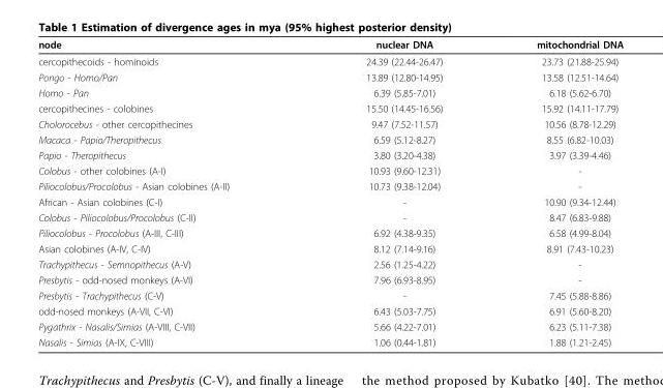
<table><thead><tr><td>node</td><td>nuclear DNA</td><td>mitochondrial DNA</td></tr></thead><tbody><tr><td>cercopithecoids - hominoids</td><td>24.39 (22.44-26.47)</td><td>23.73 (21.88-25.94)</td></tr><tr><td>Pongo - Homo/Pan</td><td>13.89 (12.80-14.95)</td><td>13.58 (12.51-14.64)</td></tr><tr><td>Homo - Pan</td><td>6.39 (5.85-7.01)</td><td>6.18 (5.62-6.70)</td></tr><tr><td>cercopithecines - colobines</td><td>15.50 (14.45-16.56)</td><td>15.92 (14.11-17.79)</td></tr><tr><td>Cholorocebus - other cercopithecines</td><td>9.47 (7.52-11.57)</td><td>10.56 (8.78-12.29)</td></tr><tr><td>Macaca - Papio/Theropithecus</td><td>6.59 (5.12-8.27)</td><td>8.55 (6.82-10.03)</td></tr><tr><td>Papio - Theropithecus</td><td>3.80 (3.20-4.38)</td><td>3.97 (3.39-4.46)</td></tr><tr><td>Colobus - other colobines (A-I)</td><td>10.93 (9.60-12.31)</td><td>-</td></tr><tr><td>Piliocolobus/Procolobus - Asian colobines (A-II)</td><td>10.73 (9.38-12.04)</td><td>-</td></tr><tr><td>African - Asian colobines (C-I)</td><td>-</td><td>10.90 (9.34-12.44)</td></tr><tr><td>Colobus - Piliocolobus/Procolobus (C-II)</td><td>-</td><td>8.47 (6.83-9.88)</td></tr><tr><td>Piliocolobus - Procolobus (A-III, C-III)</td><td>6.92 (4.38-9.35)</td><td>6.58 (4.99-8.04)</td></tr><tr><td>Asian colobines (A-IV, C-IV)</td><td>8.12 (7.14-9.16)</td><td>8.91 (7.43-10.23)</td></tr><tr><td>Trachypithecus - Semnopithecus (A-V)</td><td>2.56 (1.25-4.22)</td><td>-</td></tr><tr><td>Presbytis - odd-nosed monkeys (A-VI)</td><td>7.96 (6.93-8.95)</td><td>-</td></tr><tr><td>Presbytis - Trachypithecus (C-V)</td><td>-</td><td>7.45 (5.88-8.86)</td></tr><tr><td>odd-nosed monkeys (A-VII, C-VI)</td><td>6.43 (5.03-7.75)</td><td>6.91 (5.60-8.20)</td></tr><tr><td>Pygathrix - Nasalis/Simias (A-VIII, C-VII)</td><td>5.66 (4.22-7.01)</td><td>6.23 (5.11-7.38)</td></tr><tr><td>Nasalis - Simias (A-IX, C-VIII)</td><td>1.06 (0.44-1.81)</td><td>1.88 (1.21-2.45)</td></tr></tbody></table>